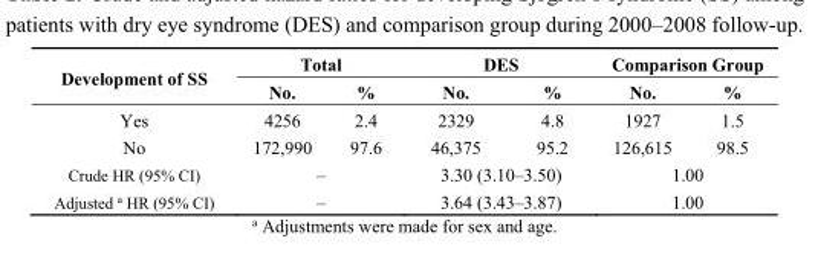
<table><thead><tr><td rowspan="2">Development of SS</td><td colspan="2">Total</td><td colspan="2">DES</td><td colspan="2">Comparison Group</td></tr><tr><td>No.</td><td>%</td><td>No.</td><td>%</td><td>No.</td><td>%</td></tr></thead><tbody><tr><td>Yes</td><td>4256</td><td>2.4</td><td>2329</td><td>4.8</td><td>1927</td><td>1.5</td></tr><tr><td>No</td><td>172,990</td><td>97.6</td><td>46,375</td><td>95.2</td><td>126,615</td><td>98.5</td></tr><tr><td>Crude HR (95% CI)</td><td colspan="2">–</td><td colspan="2">3.30 (3.10–3.50)</td><td colspan="2">1.00</td></tr><tr><td>Adjusted <sup>a</sup> HR (95% CI)</td><td colspan="2">–</td><td colspan="2">3.64 (3.43–3.87)</td><td colspan="2">1.00</td></tr></tbody></table>